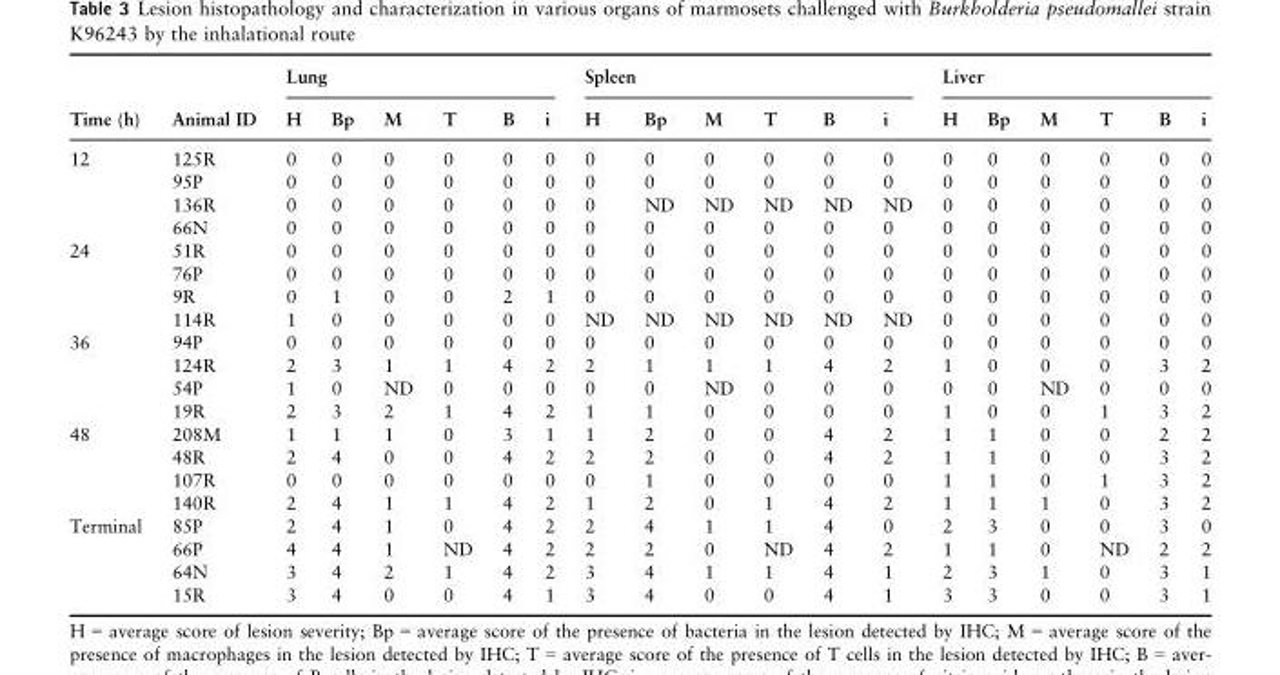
<table><thead><tr><td rowspan="2">Time (h)</td><td rowspan="2">Animal ID</td><td colspan="6">Lung</td><td colspan="6">Spleen</td><td colspan="6">Liver</td></tr><tr><td>H</td><td>Bp</td><td>M</td><td>T</td><td>B</td><td>i</td><td>H</td><td>Bp</td><td>M</td><td>T</td><td>B</td><td>i</td><td>H</td><td>Bp</td><td>M</td><td>T</td><td>B</td><td>i</td></tr></thead><tbody><tr><td rowspan="4">12</td><td>125R</td><td>0</td><td>0</td><td>0</td><td>0</td><td>0</td><td>0</td><td>0</td><td>0</td><td>0</td><td>0</td><td>0</td><td>0</td><td>0</td><td>0</td><td>0</td><td>0</td><td>0</td><td>0</td></tr><tr><td>95P</td><td>0</td><td>0</td><td>0</td><td>0</td><td>0</td><td>0</td><td>0</td><td>0</td><td>0</td><td>0</td><td>0</td><td>0</td><td>0</td><td>0</td><td>0</td><td>0</td><td>0</td><td>0</td></tr><tr><td>136R</td><td>0</td><td>0</td><td>0</td><td>0</td><td>0</td><td>0</td><td>0</td><td>ND</td><td>ND</td><td>ND</td><td>ND</td><td>ND</td><td>0</td><td>0</td><td>0</td><td>0</td><td>0</td><td>0</td></tr><tr><td>66N</td><td>0</td><td>0</td><td>0</td><td>0</td><td>0</td><td>0</td><td>0</td><td>0</td><td>0</td><td>0</td><td>0</td><td>0</td><td>0</td><td>0</td><td>0</td><td>0</td><td>0</td><td>0</td></tr><tr><td rowspan="4">24</td><td>51R</td><td>0</td><td>0</td><td>0</td><td>0</td><td>0</td><td>0</td><td>0</td><td>0</td><td>0</td><td>0</td><td>0</td><td>0</td><td>0</td><td>0</td><td>0</td><td>0</td><td>0</td><td>0</td></tr><tr><td>76P</td><td>0</td><td>0</td><td>0</td><td>0</td><td>0</td><td>0</td><td>0</td><td>0</td><td>0</td><td>0</td><td>0</td><td>0</td><td>0</td><td>0</td><td>0</td><td>0</td><td>0</td><td>0</td></tr><tr><td>9R</td><td>0</td><td>1</td><td>0</td><td>0</td><td>2</td><td>1</td><td>0</td><td>0</td><td>0</td><td>0</td><td>0</td><td>0</td><td>0</td><td>0</td><td>0</td><td>0</td><td>0</td><td>0</td></tr><tr><td>114R</td><td>1</td><td>0</td><td>0</td><td>0</td><td>0</td><td>0</td><td>ND</td><td>ND</td><td>ND</td><td>ND</td><td>ND</td><td>ND</td><td>0</td><td>0</td><td>0</td><td>0</td><td>0</td><td>0</td></tr><tr><td rowspan="4">36</td><td>94P</td><td>0</td><td>0</td><td>0</td><td>0</td><td>0</td><td>0</td><td>0</td><td>0</td><td>0</td><td>0</td><td>0</td><td>0</td><td>0</td><td>0</td><td>0</td><td>0</td><td>0</td><td>0</td></tr><tr><td>124R</td><td>2</td><td>3</td><td>1</td><td>1</td><td>4</td><td>2</td><td>2</td><td>1</td><td>1</td><td>1</td><td>4</td><td>2</td><td>1</td><td>0</td><td>0</td><td>0</td><td>3</td><td>2</td></tr><tr><td>54P</td><td>1</td><td>0</td><td>ND</td><td>0</td><td>0</td><td>0</td><td>0</td><td>0</td><td>ND</td><td>0</td><td>0</td><td>0</td><td>0</td><td>0</td><td>ND</td><td>0</td><td>0</td><td>0</td></tr><tr><td>19R</td><td>2</td><td>3</td><td>2</td><td>1</td><td>4</td><td>2</td><td>1</td><td>1</td><td>0</td><td>0</td><td>0</td><td>0</td><td>1</td><td>0</td><td>0</td><td>1</td><td>3</td><td>2</td></tr><tr><td rowspan="4">48</td><td>208M</td><td>1</td><td>1</td><td>1</td><td>0</td><td>3</td><td>1</td><td>1</td><td>2</td><td>0</td><td>0</td><td>4</td><td>2</td><td>1</td><td>1</td><td>0</td><td>0</td><td>2</td><td>2</td></tr><tr><td>48R</td><td>2</td><td>4</td><td>0</td><td>0</td><td>4</td><td>2</td><td>2</td><td>2</td><td>0</td><td>0</td><td>4</td><td>2</td><td>1</td><td>1</td><td>0</td><td>0</td><td>3</td><td>2</td></tr><tr><td>107R</td><td>0</td><td>0</td><td>0</td><td>0</td><td>0</td><td>0</td><td>0</td><td>1</td><td>0</td><td>0</td><td>0</td><td>0</td><td>1</td><td>1</td><td>0</td><td>1</td><td>3</td><td>2</td></tr><tr><td>140R</td><td>2</td><td>4</td><td>1</td><td>1</td><td>4</td><td>2</td><td>1</td><td>2</td><td>0</td><td>1</td><td>4</td><td>2</td><td>1</td><td>1</td><td>1</td><td>0</td><td>3</td><td>2</td></tr><tr><td rowspan="4">Terminal</td><td>85P</td><td>2</td><td>4</td><td>1</td><td>0</td><td>4</td><td>2</td><td>2</td><td>4</td><td>1</td><td>1</td><td>4</td><td>0</td><td>2</td><td>3</td><td>0</td><td>0</td><td>3</td><td>0</td></tr><tr><td>66P</td><td>4</td><td>4</td><td>1</td><td>ND</td><td>4</td><td>2</td><td>2</td><td>2</td><td>0</td><td>ND</td><td>4</td><td>2</td><td>1</td><td>1</td><td>0</td><td>ND</td><td>2</td><td>2</td></tr><tr><td>64N</td><td>3</td><td>4</td><td>2</td><td>1</td><td>4</td><td>2</td><td>3</td><td>4</td><td>1</td><td>1</td><td>4</td><td>1</td><td>2</td><td>3</td><td>1</td><td>0</td><td>3</td><td>1</td></tr><tr><td>15R</td><td>3</td><td>4</td><td>0</td><td>0</td><td>4</td><td>1</td><td>3</td><td>4</td><td>0</td><td>0</td><td>4</td><td>1</td><td>3</td><td>3</td><td>0</td><td>0</td><td>3</td><td>1</td></tr></tbody></table>